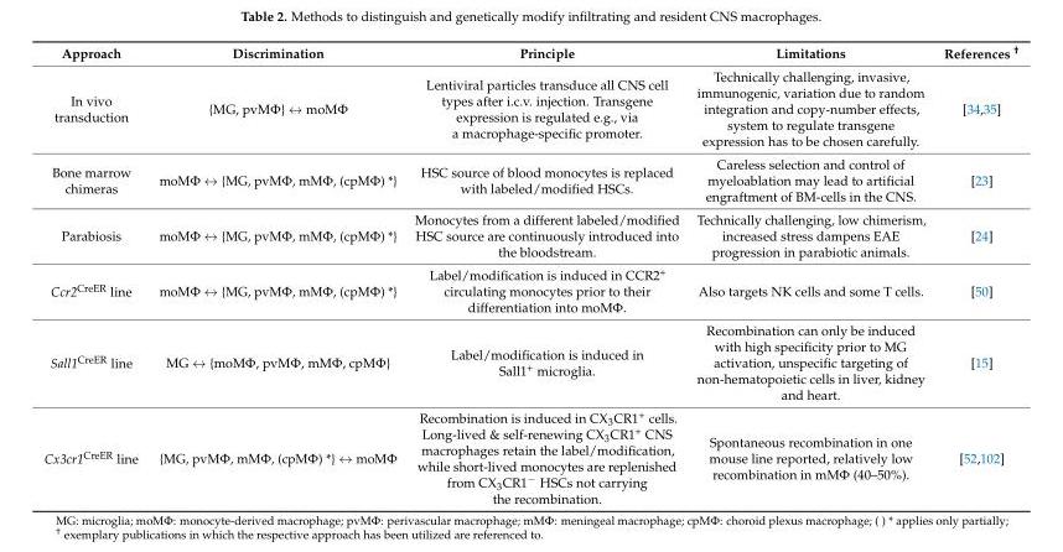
<table><thead><tr><td>Approach</td><td>Discrimination</td><td>Principle</td><td>Limitations</td><td>References <sup>†</sup></td></tr></thead><tbody><tr><td>In vivo transduction</td><td>{MG, pvMΦ} ↔ moMΦ</td><td>Lentiviral particles transduce all CNS cell types after i.c.v. injection. Transgene expression is regulated e.g., via a macrophage-specific promoter.</td><td>Technically challenging, invasive, immunogenic, variation due to random integration and copy-number effects, system to regulate transgene expression has to be chosen carefully.</td><td>[34,35]</td></tr><tr><td>Bone marrow chimeras</td><td>moMΦ ↔ {MG, pvMΦ, mMΦ, (cpMΦ) *}</td><td>HSC source of blood monocytes is replaced with labeled/modified HSCs.</td><td>Careless selection and control of myeloablation may lead to artificial engraftment of BM-cells in the CNS.</td><td>[23]</td></tr><tr><td>Parabiosis</td><td>moMΦ ↔ {MG, pvMΦ, mMΦ, (cpMΦ) *}</td><td>Monocytes from a different labeled/modified HSC source are continuously introduced into the bloodstream.</td><td>Technically challenging, low chimerism, increased stress dampens EAE progression in parabiotic animals.</td><td>[24]</td></tr><tr><td>Ccr2<sup>CreER</sup> line</td><td>moMΦ ↔ {MG, pvMΦ, mMΦ, (cpMΦ) *}</td><td>Label/modification is induced in CCR2<sup>+</sup> circulating monocytes prior to their differentiation into moMΦ.</td><td>Also targets NK cells and some T cells.</td><td>[50]</td></tr><tr><td>Sall1<sup>CreER</sup> line</td><td>MG ↔ {moMΦ, pvMΦ, mMΦ, cpMΦ}</td><td>Label/modification is induced in Sall1<sup>+</sup> microglia.</td><td>Recombination can only be induced with high specificity prior to MG activation, unspecific targeting of non-hematopoietic cells in liver, kidney and heart.</td><td>[15]</td></tr><tr><td>Cx3cr1<sup>CreER</sup> line</td><td>{MG, pvMΦ, mMΦ, (cpMΦ) *} ↔ moMΦ</td><td>Recombination is induced in CX<sub>3</sub>CR1<sup>+</sup> cells. Long-lived &amp; self-renewing CX<sub>3</sub>CR1<sup>+</sup> CNS macrophages retain the label/modification, while short-lived monocytes are replenished from CX<sub>3</sub>CR1<sup>−</sup> HSCs not carrying the recombination.</td><td>Spontaneous recombination in one mouse line reported, relatively low recombination in mMΦ (40–50%).</td><td>[52,102]</td></tr></tbody></table>